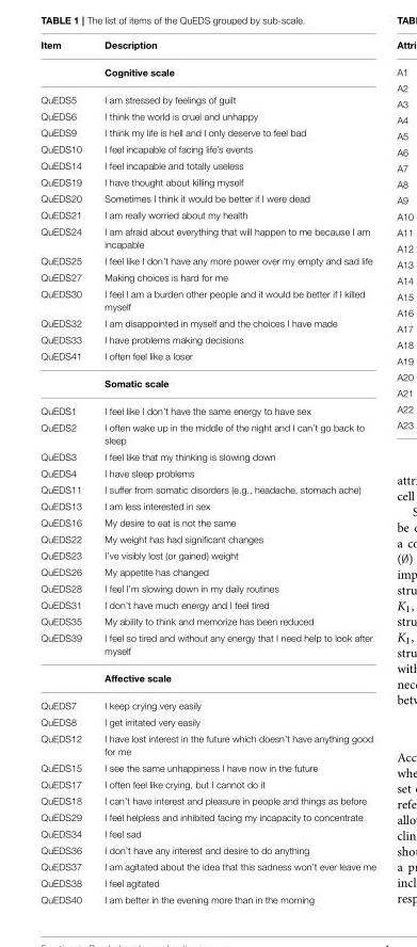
<table><thead><tr><td>Item</td><td>Description</td></tr></thead><tbody><tr><td></td><td>Cognitive scale</td></tr><tr><td>QuEDS5</td><td>I am stressed by feelings of guilt</td></tr><tr><td>QuEDS6</td><td>I think the world is cruel and unhappy</td></tr><tr><td>QuEDS9</td><td>I think my life is hell and I only deserve to feel bad</td></tr><tr><td>QuEDS10</td><td>I feel incapable of facing life’s events</td></tr><tr><td>QuEDS14</td><td>I feel incapable and totally useless</td></tr><tr><td>QuEDS19</td><td>I have thought about killing myself</td></tr><tr><td>QuEDS20</td><td>Sometimes I think it would be better if I were dead</td></tr><tr><td>QuEDS21</td><td>I am really worried about my health</td></tr><tr><td>QuEDS24</td><td>I am afraid about everything that will happen to me because I am incapable</td></tr><tr><td>QuEDS25</td><td>I feel like I don’t have any more power over my empty and sad life</td></tr><tr><td>QuEDS27</td><td>Making choices is hard for me</td></tr><tr><td>QuEDS30</td><td>I feel I am a burden other people and it would be better if I killed myself</td></tr><tr><td>QuEDS32</td><td>I am disappointed in myself and the choices I have made</td></tr><tr><td>QuEDS33</td><td>I have problems making decisions</td></tr><tr><td rowspan="2">QuEDS41</td><td>I often feel like a loser</td></tr><tr><td>Somatic scale</td></tr><tr><td>QuEDS1</td><td>I feel like I don’t have the same energy to have sex</td></tr><tr><td>QuEDS2</td><td>I often wake up in the middle of the night and I can’t go back to sleep</td></tr><tr><td>QuEDS3</td><td>I feel like that my thinking is slowing down</td></tr><tr><td>QuEDS4</td><td>I have sleep problems</td></tr><tr><td>QuEDS11</td><td>I suffer from somatic disorders (e.g., headache, stomach ache)</td></tr><tr><td>QuEDS13</td><td>I am less interested in sex</td></tr><tr><td>QuEDS16</td><td>My desire to eat is not the same</td></tr><tr><td>QuEDS22</td><td>My weight has had significant changes</td></tr><tr><td>QuEDS23</td><td>I’ve visibly lost (or gained) weight</td></tr><tr><td>QuEDS26</td><td>My appetite has changed</td></tr><tr><td>QuEDS28</td><td>I feel I’m slowing down in my daily routines</td></tr><tr><td>QuEDS31</td><td>I don’t have much energy and I feel tired</td></tr><tr><td>QuEDS35</td><td>My ability to think and memorize has been reduced</td></tr><tr><td rowspan="2">QuEDS39</td><td>I feel so tired and without any energy that I need help to look after myself</td></tr><tr><td>Affective scale</td></tr><tr><td>QuEDS7</td><td>I keep crying very easily</td></tr><tr><td>QuEDS8</td><td>I get irritated very easily</td></tr><tr><td>QuEDS12</td><td>I have lost interest in the future which doesn’t have anything good for me</td></tr><tr><td>QuEDS15</td><td>I see the same unhappiness I have now in the future</td></tr><tr><td>QuEDS17</td><td>I often feel like crying, but I cannot do it</td></tr><tr><td>QuEDS18</td><td>I can’t have interest and pleasure in people and things as before</td></tr><tr><td>QuEDS29</td><td>I feel helpless and inhibited facing my incapacity to concentrate</td></tr><tr><td>QuEDS34</td><td>I feel sad</td></tr><tr><td>QuEDS36</td><td>I don’t have any interest and desire to do anything</td></tr><tr><td>QuEDS37</td><td>I am agitated about the idea that this sadness won’t ever leave me</td></tr><tr><td>QuEDS38</td><td>I feel agitated</td></tr><tr><td>QuEDS40</td><td>I am better in the evening more than in the morning</td></tr></tbody></table>